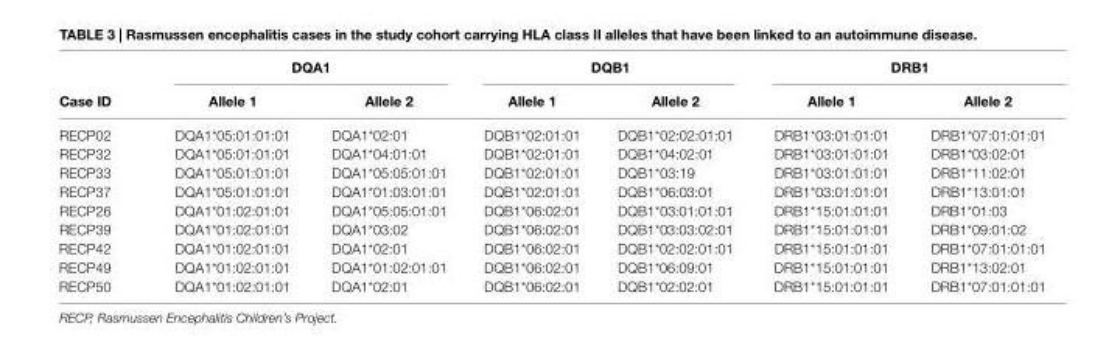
<table><thead><tr><td rowspan="2">case iD</td><td colspan="2">DQa1</td><td colspan="2">DQB1</td><td colspan="2">DrB1</td></tr><tr><td>allele 1</td><td>allele 2</td><td>allele 1</td><td>allele 2</td><td>allele 1</td><td>allele 2</td></tr></thead><tbody><tr><td>RECP02</td><td>DQA1*05:01:01:01</td><td>DQA1*02:01</td><td>DQB1*02:01:01</td><td>DQB1*02:02:01:01</td><td>DRB1*03:01:01:01</td><td>DRB1*07:01:01:01</td></tr><tr><td>RECP32</td><td>DQA1*05:01:01:01</td><td>DQA1*04:01:01</td><td>DQB1*02:01:01</td><td>DQB1*04:02:01</td><td>DRB1*03:01:01:01</td><td>DRB1*03:02:01</td></tr><tr><td>RECP33</td><td>DQA1*05:01:01:01</td><td>DQA1*05:05:01:01</td><td>DQB1*02:01:01</td><td>DQB1*03:19</td><td>DRB1*03:01:01:01</td><td>DRB1*11:02:01</td></tr><tr><td>RECP37</td><td>DQA1*05:01:01:01</td><td>DQA1*01:03:01:01</td><td>DQB1*02:01:01</td><td>DQB1*06:03:01</td><td>DRB1*03:01:01:01</td><td>DRB1*13:01:01</td></tr><tr><td>RECP26</td><td>DQA1*01:02:01:01</td><td>DQA1*05:05:01:01</td><td>DQB1*06:02:01</td><td>DQB1*03:01:01:01</td><td>DRB1*15:01:01:01</td><td>DRB1*01:03</td></tr><tr><td>RECP39</td><td>DQA1*01:02:01:01</td><td>DQA1*03:02</td><td>DQB1*06:02:01</td><td>DQB1*03:03:02:01</td><td>DRB1*15:01:01:01</td><td>DRB1*09:01:02</td></tr><tr><td>RECP42</td><td>DQA1*01:02:01:01</td><td>DQA1*02:01</td><td>DQB1*06:02:01</td><td>DQB1*02:02:01:01</td><td>DRB1*15:01:01:01</td><td>DRB1*07:01:01:01</td></tr><tr><td>RECP49</td><td>DQA1*01:02:01:01</td><td>DQA1*01:02:01:01</td><td>DQB1*06:02:01</td><td>DQB1*06:09:01</td><td>DRB1*15:01:01:01</td><td>DRB1*13:02:01</td></tr><tr><td>RECP50</td><td>DQA1*01:02:01:01</td><td>DQA1*02:01</td><td>DQB1*06:02:01</td><td>DQB1*02:02:01</td><td>DRB1*15:01:01:01</td><td>DRB1*07:01:01:01</td></tr></tbody></table>